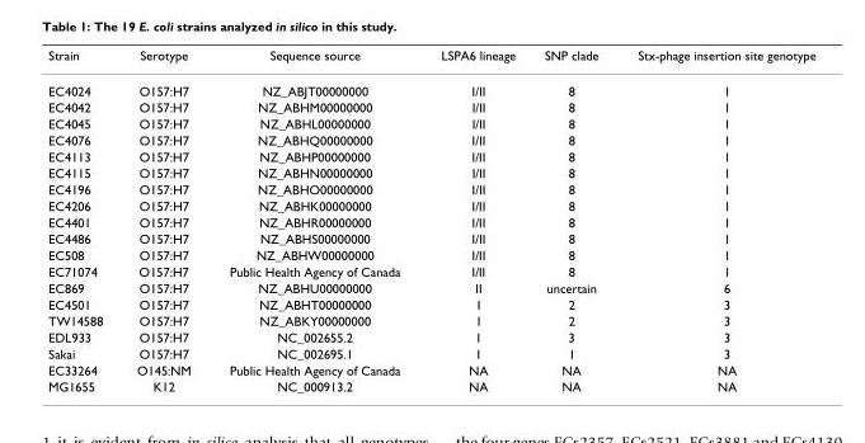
<table><thead><tr><td>Strain</td><td>Serotype</td><td>Sequence source</td><td>LSPA6 lineage</td><td>SNP clade</td><td>Stx-phage insertion site genotype</td></tr></thead><tbody><tr><td>EC4024</td><td>O157:H7</td><td>NZ_ABJT00000000</td><td>I/II</td><td>8</td><td>1</td></tr><tr><td>EC4042</td><td>O157:H7</td><td>NZ_ABHM00000000</td><td>I/II</td><td>8</td><td>1</td></tr><tr><td>EC4045</td><td>O157:H7</td><td>NZ_ABHL00000000</td><td>I/II</td><td>8</td><td>1</td></tr><tr><td>EC4076</td><td>O157:H7</td><td>NZ_ABHQ00000000</td><td>I/II</td><td>8</td><td>1</td></tr><tr><td>EC4113</td><td>O157:H7</td><td>NZ_ABHP00000000</td><td>I/II</td><td>8</td><td>1</td></tr><tr><td>EC4115</td><td>O157:H7</td><td>NZ_ABHN00000000</td><td>I/II</td><td>8</td><td>1</td></tr><tr><td>EC4196</td><td>O157:H7</td><td>NZ_ABHO00000000</td><td>I/II</td><td>8</td><td>1</td></tr><tr><td>EC4206</td><td>O157:H7</td><td>NZ_ABHK00000000</td><td>I/II</td><td>8</td><td>1</td></tr><tr><td>EC4401</td><td>O157:H7</td><td>NZ_ABHR00000000</td><td>I/II</td><td>8</td><td>1</td></tr><tr><td>EC4486</td><td>O157:H7</td><td>NZ_ABHS00000000</td><td>I/II</td><td>8</td><td>1</td></tr><tr><td>EC508</td><td>O157:H7</td><td>NZ_ABHW00000000</td><td>I/II</td><td>8</td><td>1</td></tr><tr><td>EC71074</td><td>O157:H7</td><td>Public Health Agency of Canada</td><td>I/II</td><td>8</td><td>1</td></tr><tr><td>EC869</td><td>O157:H7</td><td>NZ_ABHU00000000</td><td>II</td><td>uncertain</td><td>6</td></tr><tr><td>EC4501</td><td>O157:H7</td><td>NZ_ABHT00000000</td><td>I</td><td>2</td><td>3</td></tr><tr><td>TW14588</td><td>O157:H7</td><td>NZ_ABKY00000000</td><td>I</td><td>2</td><td>3</td></tr><tr><td>EDL933</td><td>O157:H7</td><td>NC_002655.2</td><td>I</td><td>3</td><td>3</td></tr><tr><td>Sakai</td><td>O157:H7</td><td>NC_002695.1</td><td>I</td><td>1</td><td>3</td></tr><tr><td>EC33264</td><td>O145:NM</td><td>Public Health Agency of Canada</td><td>NA</td><td>NA</td><td>NA</td></tr><tr><td>MG1655</td><td>K12</td><td>NC_000913.2</td><td>NA</td><td>NA</td><td>NA</td></tr></tbody></table>